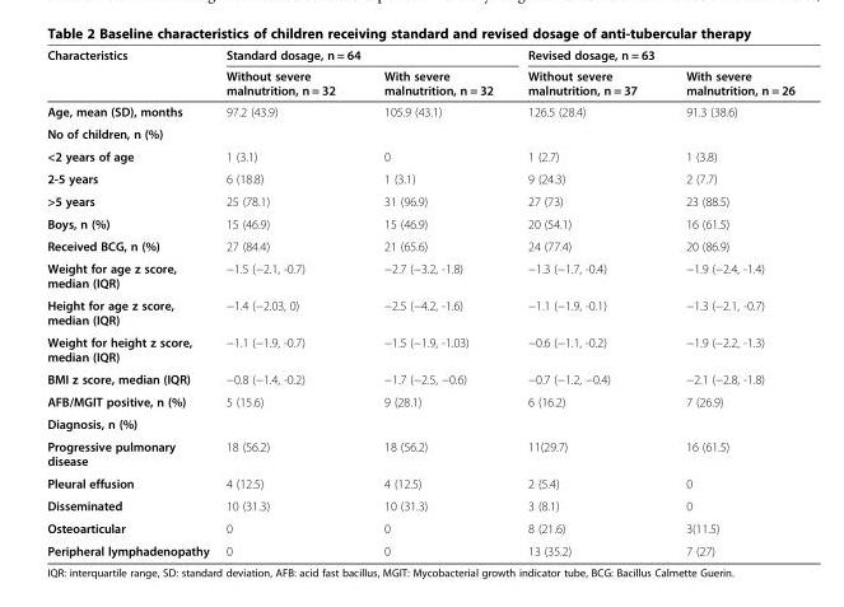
<table><thead><tr><td rowspan="2">Characteristics</td><td colspan="2">Standard dosage, n = 64</td><td colspan="2">Revised dosage, n = 63</td></tr><tr><td>Without severe malnutrition, n = 32</td><td>With severe malnutrition, n = 32</td><td>Without severe malnutrition, n = 37</td><td>With severe malnutrition, n = 26</td></tr></thead><tbody><tr><td>Age, mean (SD), months</td><td>97.2 (43.9)</td><td>105.9 (43.1)</td><td>126.5 (28.4)</td><td>91.3 (38.6)</td></tr><tr><td colspan="5">No of children, n (%)</td></tr><tr><td>&lt;2 years of age</td><td>1 (3.1)</td><td>0</td><td>1 (2.7)</td><td>1 (3.8)</td></tr><tr><td>2-5 years</td><td>6 (18.8)</td><td>1 (3.1)</td><td>9 (24.3)</td><td>2 (7.7)</td></tr><tr><td>&gt;5 years</td><td>25 (78.1)</td><td>31 (96.9)</td><td>27 (73)</td><td>23 (88.5)</td></tr><tr><td>Boys, n (%)</td><td>15 (46.9)</td><td>15 (46.9)</td><td>20 (54.1)</td><td>16 (61.5)</td></tr><tr><td>Received BCG, n (%)</td><td>27 (84.4)</td><td>21 (65.6)</td><td>24 (77.4)</td><td>20 (86.9)</td></tr><tr><td>Weight for age z score, median (IQR)</td><td>−1.5 (−2.1, -0.7)</td><td>−2.7 (−3.2, -1.8)</td><td>−1.3 (−1.7, -0.4)</td><td>−1.9 (−2.4, -1.4)</td></tr><tr><td>Height for age z score, median (IQR)</td><td>−1.4 (−2.03, 0)</td><td>−2.5 (−4.2, -1.6)</td><td>−1.1 (−1.9, -0.1)</td><td>−1.3 (−2.1, -0.7)</td></tr><tr><td>Weight for height z score, median (IQR)</td><td>−1.1 (−1.9, -0.7)</td><td>−1.5 (−1.9, -1.03)</td><td>−0.6 (−1.1, -0.2)</td><td>−1.9 (−2.2, -1.3)</td></tr><tr><td>BMI z score, median (IQR)</td><td>−0.8 (−1.4, -0.2)</td><td>−1.7 (−2.5, −0.6)</td><td>−0.7 (−1.2, −0.4)</td><td>−2.1 (−2.8, -1.8)</td></tr><tr><td>AFB/MGIT positive, n (%)</td><td>5 (15.6)</td><td>9 (28.1)</td><td>6 (16.2)</td><td>7 (26.9)</td></tr><tr><td colspan="5">Diagnosis, n (%)</td></tr><tr><td>Progressive pulmonary disease</td><td>18 (56.2)</td><td>18 (56.2)</td><td>11(29.7)</td><td>16 (61.5)</td></tr><tr><td>Pleural effusion</td><td>4 (12.5)</td><td>4 (12.5)</td><td>2 (5.4)</td><td>0</td></tr><tr><td>Disseminated</td><td>10 (31.3)</td><td>10 (31.3)</td><td>3 (8.1)</td><td>0</td></tr><tr><td>Osteoarticular</td><td>0</td><td>0</td><td>8 (21.6)</td><td>3(11.5)</td></tr><tr><td>Peripheral lymphadenopathy</td><td>0</td><td>0</td><td>13 (35.2)</td><td>7 (27)</td></tr></tbody></table>